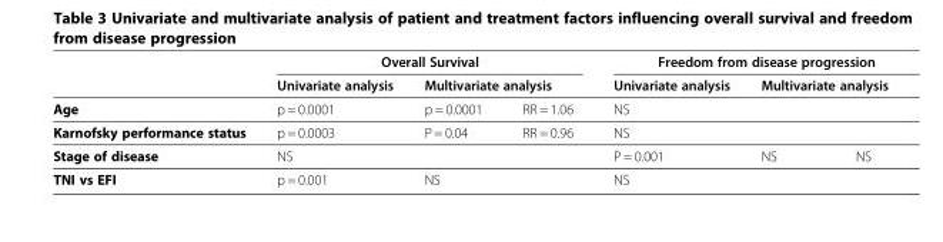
<table><thead><tr><td rowspan="3">Age</td><td colspan="3">Overall Survival</td><td colspan="3">Freedom from disease progression</td></tr><tr><td rowspan="2">Univariate analysis p = 0.0001</td><td colspan="2">Multivariate analysis</td><td rowspan="2">Univariate analysis NS</td><td colspan="2">Multivariate analysis</td></tr><tr><td>p = 0.0001</td><td>RR = 1.06</td><td></td><td></td></tr></thead><tbody><tr><td>Karnofsky performance status</td><td>p = 0.0003</td><td>P = 0.04</td><td>RR = 0.96</td><td>NS</td><td></td><td></td></tr><tr><td>Stage of disease</td><td>NS</td><td></td><td></td><td>P = 0.001</td><td>NS</td><td>NS</td></tr><tr><td>TNI vs EFI</td><td>p = 0.001</td><td>NS</td><td></td><td>NS</td><td></td><td></td></tr></tbody></table>